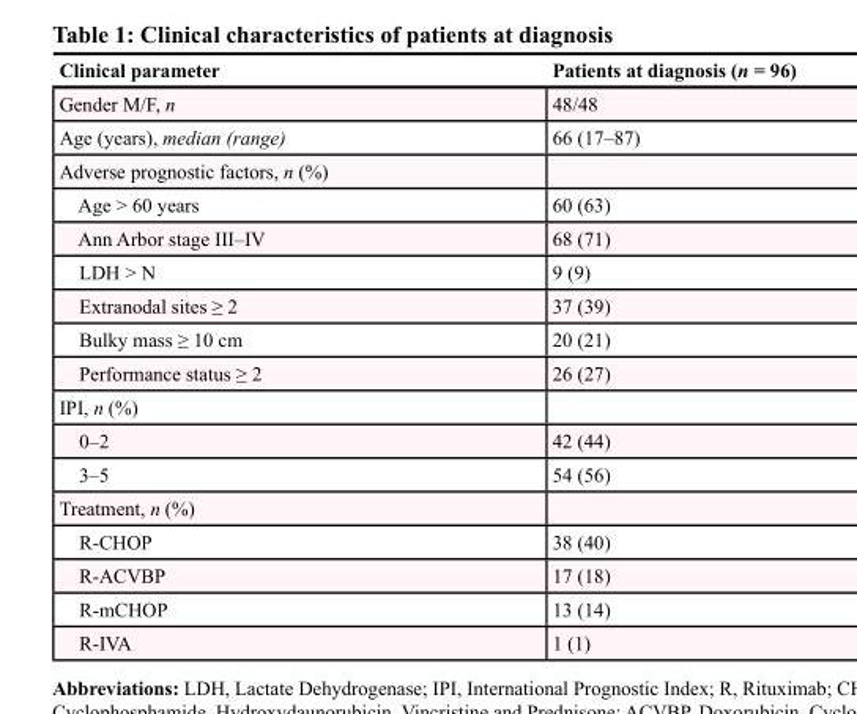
<table><thead><tr><td>Clinical parameter</td><td>Patients at diagnosis (n = 96)</td></tr></thead><tbody><tr><td>Gender M/F, n</td><td>48/48</td></tr><tr><td>Age (years), median (range)</td><td>66 (17–87)</td></tr><tr><td colspan="2">Adverse prognostic factors, n (%)</td></tr><tr><td>Age &gt; 60 years</td><td>60 (63)</td></tr><tr><td>Ann Arbor stage III–IV</td><td>68 (71)</td></tr><tr><td>LDH &gt; N</td><td>9 (9)</td></tr><tr><td>Extranodal sites ≥ 2</td><td>37 (39)</td></tr><tr><td>Bulky mass ≥ 10 cm</td><td>20 (21)</td></tr><tr><td>Performance status ≥ 2</td><td>26 (27)</td></tr><tr><td colspan="2">IPI, n (%)</td></tr><tr><td>0–2</td><td>42 (44)</td></tr><tr><td>3–5</td><td>54 (56)</td></tr><tr><td colspan="2">Treatment, n (%)</td></tr><tr><td>R-CHOP</td><td>38 (40)</td></tr><tr><td>R-ACVBP</td><td>17 (18)</td></tr><tr><td>R-mCHOP</td><td>13 (14)</td></tr><tr><td>R-IVA</td><td>1 (1)</td></tr></tbody></table>